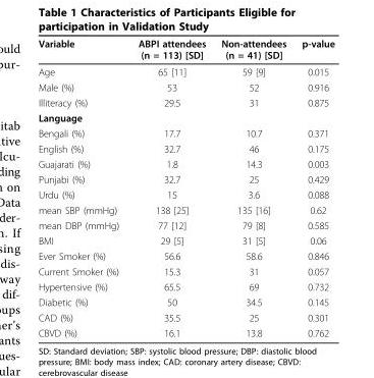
<table><thead><tr><td>Variable</td><td>ABPI attendees (n = 113) [SD]</td><td>Non-attendees (n = 41) [SD]</td><td>p-value</td></tr></thead><tbody><tr><td>Age</td><td>65 [11]</td><td>59 [9]</td><td>0.015</td></tr><tr><td>Male (%)</td><td>53</td><td>52</td><td>0.916</td></tr><tr><td>Illiteracy (%)</td><td>29.5</td><td>31</td><td>0.875</td></tr><tr><td colspan="4">Language</td></tr><tr><td>Bengali (%)</td><td>17.7</td><td>10.7</td><td>0.371</td></tr><tr><td>English (%)</td><td>32.7</td><td>46</td><td>0.175</td></tr><tr><td>Guajarati (%)</td><td>1.8</td><td>14.3</td><td>0.003</td></tr><tr><td>Punjabi (%)</td><td>32.7</td><td>25</td><td>0.429</td></tr><tr><td>Urdu (%)</td><td>15</td><td>3.6</td><td>0.088</td></tr><tr><td>mean SBP (mmHg)</td><td>138 [25]</td><td>135 [16]</td><td>0.62</td></tr><tr><td>mean DBP (mmHg)</td><td>77 [12]</td><td>79 [8]</td><td>0.585</td></tr><tr><td>BMI</td><td>29 [5]</td><td>31 [5]</td><td>0.06</td></tr><tr><td>Ever Smoker (%)</td><td>56.6</td><td>58.6</td><td>0.846</td></tr><tr><td>Current Smoker (%)</td><td>15.3</td><td>31</td><td>0.057</td></tr><tr><td>Hypertensive (%)</td><td>65.5</td><td>69</td><td>0.732</td></tr><tr><td>Diabetic (%)</td><td>50</td><td>34.5</td><td>0.145</td></tr><tr><td>CAD (%)</td><td>35.5</td><td>25</td><td>0.301</td></tr><tr><td>CBVD (%)</td><td>16.1</td><td>13.8</td><td>0.762</td></tr></tbody></table>